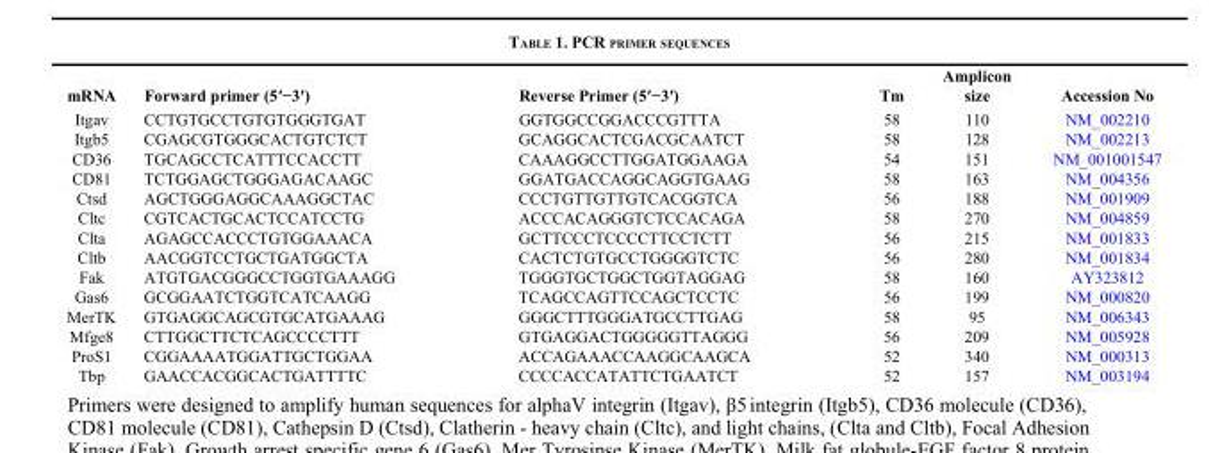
<table><thead><tr><td>mRNA</td><td>Forward primer (5′−3′)</td><td>Reverse Primer (5′−3′)</td><td>Tm</td><td>Amplicon size</td><td>Accession No</td></tr></thead><tbody><tr><td>Itgav</td><td>CCTGTGCCTGTGTGGGTGAT</td><td>GGTGGCCGGACCCGTTTA</td><td>58</td><td>110</td><td>NM_002210</td></tr><tr><td>Itgb5</td><td>CGAGCGTGGGCACTGTCTCT</td><td>GCAGGCACTCGACGCAATCT</td><td>58</td><td>128</td><td>NM_002213</td></tr><tr><td>CD36</td><td>TGCAGCCTCATTTCCACCTT</td><td>CAAAGGCCTTGGATGGAAGA</td><td>54</td><td>151</td><td>NM_001001547</td></tr><tr><td>CD81</td><td>TCTGGAGCTGGGAGACAAGC</td><td>GGATGACCAGGCAGGTGAAG</td><td>58</td><td>163</td><td>NM_004356</td></tr><tr><td>Ctsd</td><td>AGCTGGGAGGCAAAGGCTAC</td><td>CCCTGTTGTTGTCACGGTCA</td><td>56</td><td>188</td><td>NM_001909</td></tr><tr><td>Cltc</td><td>CGTCACTGCACTCCATCCTG</td><td>ACCCACAGGGTCTCCACAGA</td><td>58</td><td>270</td><td>NM_004859</td></tr><tr><td>Clta</td><td>AGAGCCACCCTGTGGAAACA</td><td>GCTTCCCTCCCCTTCCTCTT</td><td>56</td><td>215</td><td>NM_001833</td></tr><tr><td>Cltb</td><td>AACGGTCCTGCTGATGGCTA</td><td>CACTCTGTGCCTGGGGTCTC</td><td>56</td><td>280</td><td>NM_001834</td></tr><tr><td>Fak</td><td>ATGTGACGGGCCTGGTGAAAGG</td><td>TGGGTGCTGGCTGGTAGGAG</td><td>58</td><td>160</td><td>AY323812</td></tr><tr><td>Gas6</td><td>GCGGAATCTGGTCATCAAGG</td><td>TCAGCCAGTTCCAGCTCCTC</td><td>56</td><td>199</td><td>NM_000820</td></tr><tr><td>MerTK</td><td>GTGAGGCAGCGTGCATGAAAG</td><td>GGGCTTTGGGATGCCTTGAG</td><td>58</td><td>95</td><td>NM_006343</td></tr><tr><td>Mfge8</td><td>CTTGGCTTCTCAGCCCCTTT</td><td>GTGAGGACTGGGGGTTAGGG</td><td>56</td><td>209</td><td>NM_005928</td></tr><tr><td>ProS1</td><td>CGGAAAATGGATTGCTGGAA</td><td>ACCAGAAACCAAGGCAAGCA</td><td>52</td><td>340</td><td>NM_000313</td></tr><tr><td>Tbp</td><td>GAACCACGGCACTGATTTTC</td><td>CCCCACCATATTCTGAATCT</td><td>52</td><td>157</td><td>NM_003194</td></tr></tbody></table>